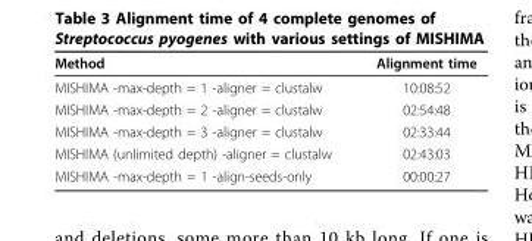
<table><thead><tr><td>Method</td><td>Alignment time</td></tr></thead><tbody><tr><td>MISHIMA -max-depth = 1 -aligner = clustalw</td><td>10:08:52</td></tr><tr><td>MISHIMA -max-depth = 2 -aligner = clustalw</td><td>02:54:48</td></tr><tr><td>MISHIMA -max-depth = 3 -aligner = clustalw</td><td>02:33:44</td></tr><tr><td>MISHIMA (unlimited depth) -aligner = clustalw</td><td>02:43:03</td></tr><tr><td>MISHIMA -max-depth = 1 -align-seeds-only</td><td>00:00:27</td></tr></tbody></table>